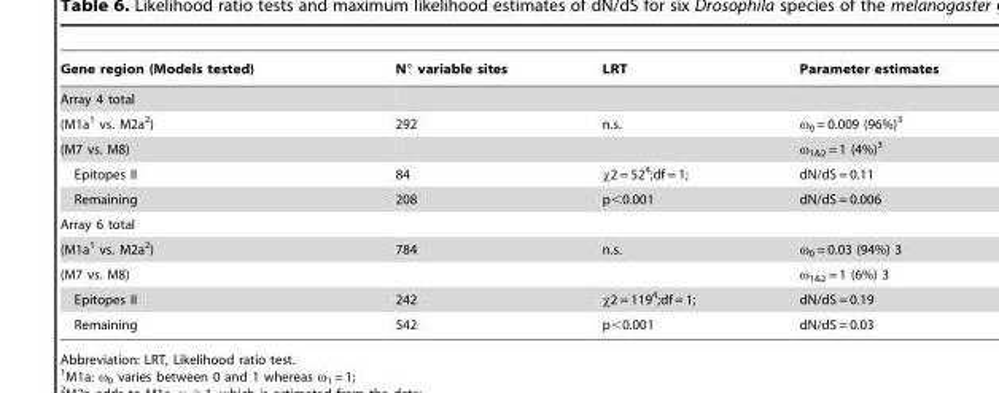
<table><thead><tr><td>Gene region (Models tested)</td><td>N° variable sites</td><td>LRT</td><td>Parameter estimates</td></tr></thead><tbody><tr><td colspan="4">Array 4 total</td></tr><tr><td>(M1a<sup>1</sup> vs. M2a<sup>2</sup>)</td><td>292</td><td>n.s.</td><td>ω<sub>0</sub> = 0.009 (96%)<sup>3</sup></td></tr><tr><td>(M7 vs. M8)</td><td></td><td></td><td>ω<sub>1&amp;2</sub> = 1 (4%)<sup>3</sup></td></tr><tr><td>Epitopes II</td><td>84</td><td>χ2 = 52<sup>4</sup>;df = 1;</td><td>dN/dS = 0.11</td></tr><tr><td>Remaining</td><td>208</td><td>p&lt;0.001</td><td>dN/dS = 0.006</td></tr><tr><td colspan="4">Array 6 total</td></tr><tr><td>(M1a<sup>1</sup> vs. M2a<sup>2</sup>)</td><td>784</td><td>n.s.</td><td>ω<sub>0</sub> = 0.03 (94%) 3</td></tr><tr><td>(M7 vs. M8)</td><td></td><td></td><td>ω<sub>1&amp;2</sub> = 1 (6%) 3</td></tr><tr><td>Epitopes II</td><td>242</td><td>χ2 = 119<sup>4</sup>;df = 1;</td><td>dN/dS = 0.19</td></tr><tr><td>Remaining</td><td>542</td><td>p&lt;0.001</td><td>dN/dS = 0.03</td></tr></tbody></table>